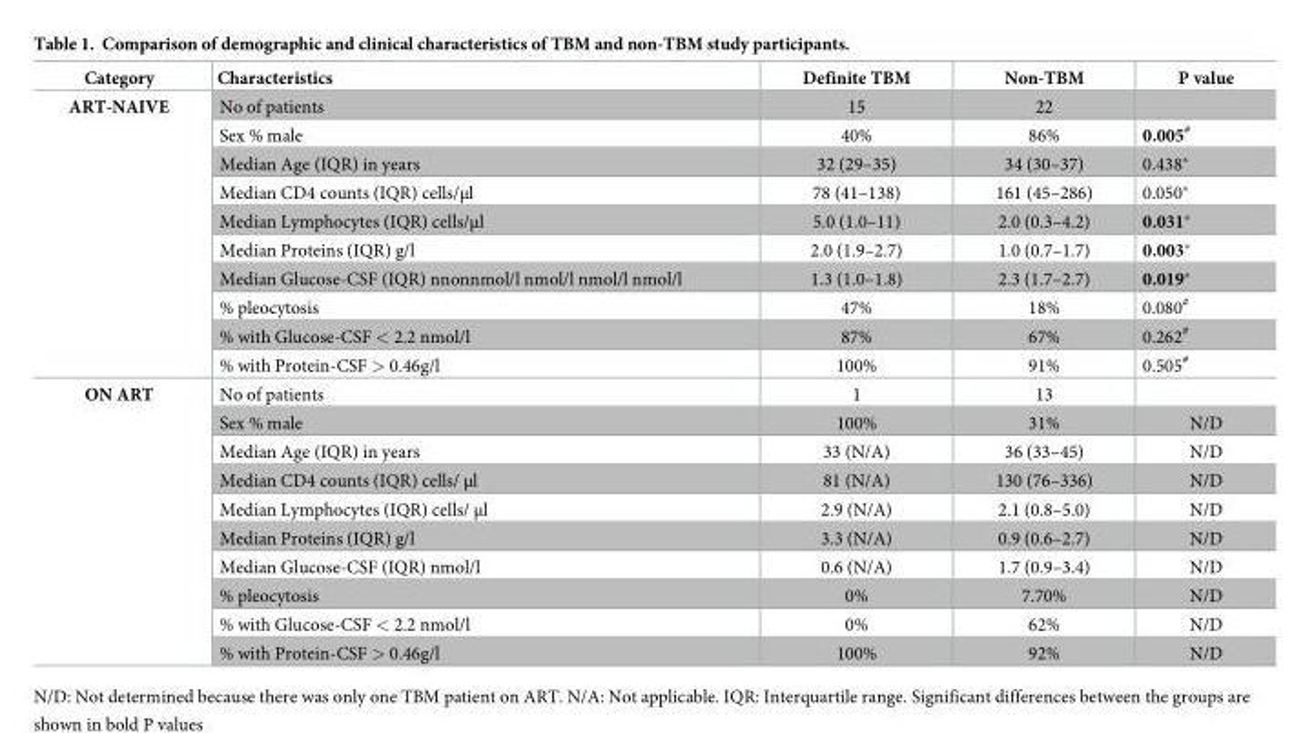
<table><thead><tr><td>Category</td><td>Characteristics</td><td>Definite TBM</td><td>Non-TBM</td><td>P value</td></tr></thead><tbody><tr><td rowspan="10">ART-NAIVE</td><td>No of patients</td><td>15</td><td>22</td><td></td></tr><tr><td>Sex % male</td><td>40%</td><td>86%</td><td>0.005<sup>#</sup></td></tr><tr><td>Median Age (IQR) in years</td><td>32 (29–35)</td><td>34 (30–37)</td><td>0.438*</td></tr><tr><td>Median CD4 counts (IQR) cells/μl</td><td>78 (41–138)</td><td>161 (45–286)</td><td>0.050*</td></tr><tr><td>Median Lymphocytes (IQR) cells/μl</td><td>5.0 (1.0–11)</td><td>2.0 (0.3–4.2)</td><td>0.031*</td></tr><tr><td>Median Proteins (IQR) g/l</td><td>2.0 (1.9–2.7)</td><td>1.0 (0.7–1.7)</td><td>0.003*</td></tr><tr><td>Median Glucose-CSF (IQR) nnonnmol/l nmol/l nmol/l nmol/l</td><td>1.3 (1.0–1.8)</td><td>2.3 (1.7–2.7)</td><td>0.019*</td></tr><tr><td>% pleocytosis</td><td>47%</td><td>18%</td><td>0.080<sup>#</sup></td></tr><tr><td>% with Glucose-CSF &lt; 2.2 nmol/l</td><td>87%</td><td>67%</td><td>0.262<sup>#</sup></td></tr><tr><td>% with Protein-CSF &gt; 0.46g/l</td><td>100%</td><td>91%</td><td>0.505<sup>#</sup></td></tr><tr><td rowspan="10">ON ART</td><td>No of patients</td><td>1</td><td>13</td><td></td></tr><tr><td>Sex % male</td><td>100%</td><td>31%</td><td>N/D</td></tr><tr><td>Median Age (IQR) in years</td><td>33 (N/A)</td><td>36 (33–45)</td><td>N/D</td></tr><tr><td>Median CD4 counts (IQR) cells/ μl</td><td>81 (N/A)</td><td>130 (76–336)</td><td>N/D</td></tr><tr><td>Median Lymphocytes (IQR) cells/ μl</td><td>2.9 (N/A)</td><td>2.1 (0.8–5.0)</td><td>N/D</td></tr><tr><td>Median Proteins (IQR) g/l</td><td>3.3 (N/A)</td><td>0.9 (0.6–2.7)</td><td>N/D</td></tr><tr><td>Median Glucose-CSF (IQR) nmol/l</td><td>0.6 (N/A)</td><td>1.7 (0.9–3.4)</td><td>N/D</td></tr><tr><td>% pleocytosis</td><td>0%</td><td>7.70%</td><td>N/D</td></tr><tr><td>% with Glucose-CSF &lt; 2.2 nmol/l</td><td>0%</td><td>62%</td><td>N/D</td></tr><tr><td>% with Protein-CSF &gt; 0.46g/l</td><td>100%</td><td>92%</td><td>N/D</td></tr></tbody></table>